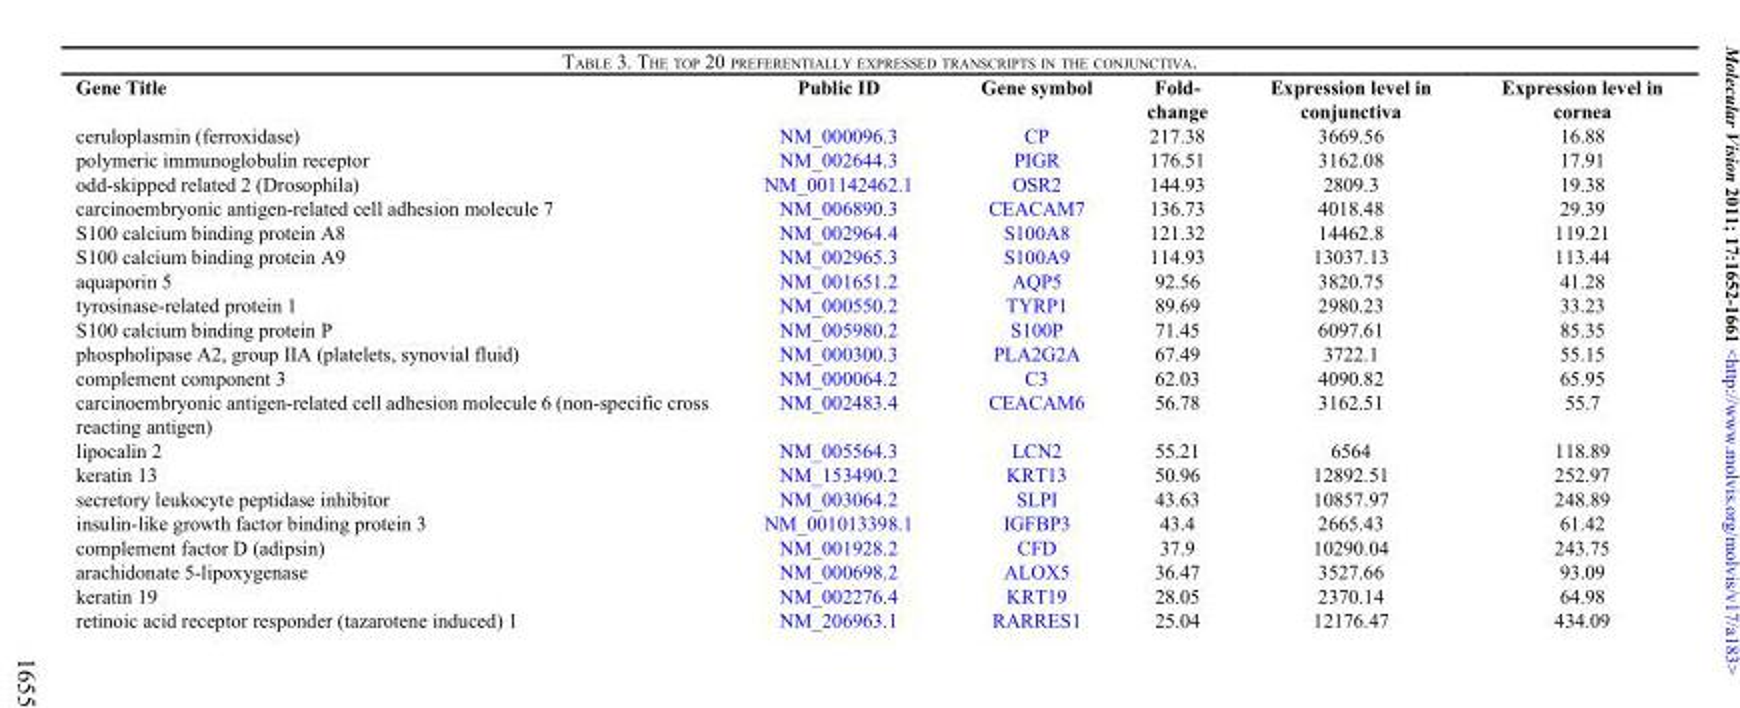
<table><thead><tr><td>Gene Title</td><td>Public ID</td><td>Gene symbol</td><td>Fold- change</td><td>Expression level in conjunctiva</td><td>Expression level in cornea</td></tr></thead><tbody><tr><td>ceruloplasmin (ferroxidase)</td><td>NM_000096.3</td><td>CP</td><td>217.38</td><td>3669.56</td><td>16.88</td></tr><tr><td>polymeric immunoglobulin receptor</td><td>NM_002644.3</td><td>PIGR</td><td>176.51</td><td>3162.08</td><td>17.91</td></tr><tr><td>odd-skipped related 2 (Drosophila)</td><td>NM_001142462.1</td><td>OSR2</td><td>144.93</td><td>2809.3</td><td>19.38</td></tr><tr><td>carcinoembryonic antigen-related cell adhesion molecule 7</td><td>NM_006890.3</td><td>CEACAM7</td><td>136.73</td><td>4018.48</td><td>29.39</td></tr><tr><td>S100 calcium binding protein A8</td><td>NM_002964.4</td><td>S100A8</td><td>121.32</td><td>14462.8</td><td>119.21</td></tr><tr><td>S100 calcium binding protein A9</td><td>NM_002965.3</td><td>S100A9</td><td>114.93</td><td>13037.13</td><td>113.44</td></tr><tr><td>aquaporin 5</td><td>NM_001651.2</td><td>AQP5</td><td>92.56</td><td>3820.75</td><td>41.28</td></tr><tr><td>tyrosinase-related protein 1</td><td>NM_000550.2</td><td>TYRP1</td><td>89.69</td><td>2980.23</td><td>33.23</td></tr><tr><td>S100 calcium binding protein P</td><td>NM_005980.2</td><td>S100P</td><td>71.45</td><td>6097.61</td><td>85.35</td></tr><tr><td>phospholipase A2, group IIA (platelets, synovial fluid)</td><td>NM_000300.3</td><td>PLA2G2A</td><td>67.49</td><td>3722.1</td><td>55.15</td></tr><tr><td>complement component 3</td><td>NM_000064.2</td><td>C3</td><td>62.03</td><td>4090.82</td><td>65.95</td></tr><tr><td>carcinoembryonic antigen-related cell adhesion molecule 6 (non-specific cross reacting antigen)</td><td>NM_002483.4</td><td>CEACAM6</td><td>56.78</td><td>3162.51</td><td>55.7</td></tr><tr><td>lipocalin 2</td><td>NM_005564.3</td><td>LCN2</td><td>55.21</td><td>6564</td><td>118.89</td></tr><tr><td>keratin 13</td><td>NM_153490.2</td><td>KRT13</td><td>50.96</td><td>12892.51</td><td>252.97</td></tr><tr><td>secretory leukocyte peptidase inhibitor</td><td>NM_003064.2</td><td>SLPI</td><td>43.63</td><td>10857.97</td><td>248.89</td></tr><tr><td>insulin-like growth factor binding protein 3</td><td>NM_001013398.1</td><td>IGFBP3</td><td>43.4</td><td>2665.43</td><td>61.42</td></tr><tr><td>complement factor D (adipsin)</td><td>NM_001928.2</td><td>CFD</td><td>37.9</td><td>10290.04</td><td>243.75</td></tr><tr><td>arachidonate 5-lipoxygenase</td><td>NM_000698.2</td><td>ALOX5</td><td>36.47</td><td>3527.66</td><td>93.09</td></tr><tr><td>keratin 19</td><td>NM_002276.4</td><td>KRT19</td><td>28.05</td><td>2370.14</td><td>64.98</td></tr><tr><td>retinoic acid receptor responder (tazarotene induced) 1</td><td>NM_206963.1</td><td>RARRES1</td><td>25.04</td><td>12176.47</td><td>434.09</td></tr></tbody></table>